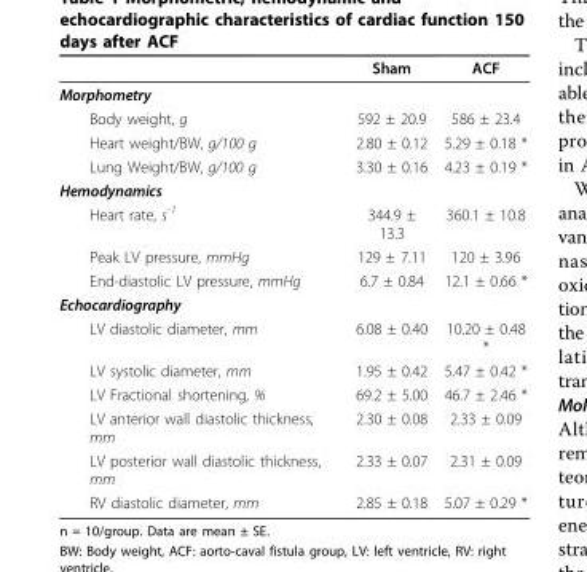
<table><thead><tr><td></td><td>Sham</td><td>ACF</td></tr></thead><tbody><tr><td colspan="3">Morphometry</td></tr><tr><td>Body weight, g</td><td>592 ± 20.9</td><td>586 ± 23.4</td></tr><tr><td>Heart weight/BW, g/100 g</td><td>2.80 ± 0.12</td><td>5.29 ± 0.18 *</td></tr><tr><td>Lung Weight/BW, g/100 g</td><td>3.30 ± 0.16</td><td>4.23 ± 0.19 *</td></tr><tr><td colspan="3">Hemodynamics</td></tr><tr><td>Heart rate, s<sup>-1</sup></td><td>344.9 ± 13.3</td><td>360.1 ± 10.8</td></tr><tr><td>Peak LV pressure, mmHg</td><td>129 ± 7.11</td><td>120 ± 3.96</td></tr><tr><td>End-diastolic LV pressure, mmHg</td><td>6.7 ± 0.84</td><td>12.1 ± 0.66 *</td></tr><tr><td colspan="3">Echocardiography</td></tr><tr><td>LV diastolic diameter, mm</td><td>6.08 ± 0.40</td><td>10.20 ± 0.48 *</td></tr><tr><td>LV systolic diameter, mm</td><td>1.95 ± 0.42</td><td>5.47 ± 0.42 *</td></tr><tr><td>LV Fractional shortening, %</td><td>69.2 ± 5.00</td><td>46.7 ± 2.46 *</td></tr><tr><td>LV anterior wall diastolic thickness, mm</td><td>2.30 ± 0.08</td><td>2.33 ± 0.09</td></tr><tr><td>LV posterior wall diastolic thickness, mm</td><td>2.33 ± 0.07</td><td>2.31 ± 0.09</td></tr><tr><td>RV diastolic diameter, mm</td><td>2.85 ± 0.18</td><td>5.07 ± 0.29 *</td></tr></tbody></table>